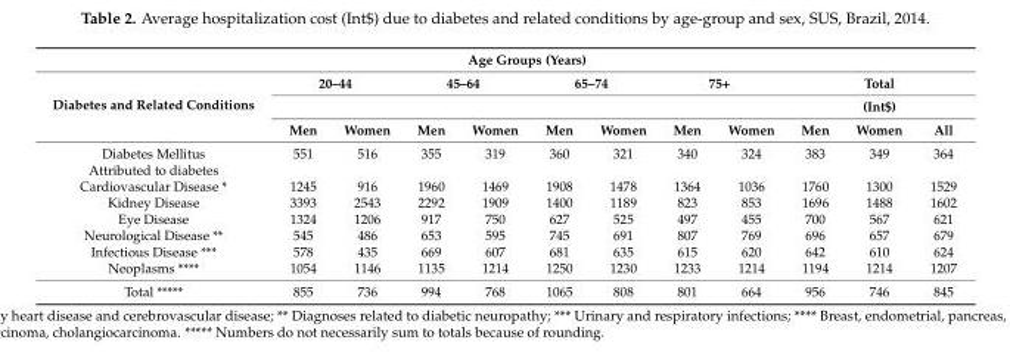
<table><thead><tr><td rowspan="4">Diabetes and Related Conditions</td><td colspan="8">Age Groups (Years)</td><td></td><td></td><td></td></tr><tr><td colspan="2">20–44</td><td colspan="2">45–64</td><td colspan="2">65–74</td><td colspan="2">75+</td><td rowspan="2" colspan="3">Total (Int$)</td></tr><tr><td rowspan="2">Men</td><td rowspan="2">Women</td><td rowspan="2">Men</td><td rowspan="2">Women</td><td rowspan="2">Men</td><td rowspan="2">Women</td><td rowspan="2">Men</td><td rowspan="2">Women</td></tr><tr><td>Men</td><td>Women</td><td>All</td></tr></thead><tbody><tr><td>Diabetes Mellitus</td><td>551</td><td>516</td><td>355</td><td>319</td><td>360</td><td>321</td><td>340</td><td>324</td><td>383</td><td>349</td><td>364</td></tr><tr><td colspan="12">Attributed to diabetes</td></tr><tr><td>Cardiovascular Disease *</td><td>1245</td><td>916</td><td>1960</td><td>1469</td><td>1908</td><td>1478</td><td>1364</td><td>1036</td><td>1760</td><td>1300</td><td>1529</td></tr><tr><td>Kidney Disease</td><td>3393</td><td>2543</td><td>2292</td><td>1909</td><td>1400</td><td>1189</td><td>823</td><td>853</td><td>1696</td><td>1488</td><td>1602</td></tr><tr><td>Eye Disease</td><td>1324</td><td>1206</td><td>917</td><td>750</td><td>627</td><td>525</td><td>497</td><td>455</td><td>700</td><td>567</td><td>621</td></tr><tr><td>Neurological Disease **</td><td>545</td><td>486</td><td>653</td><td>595</td><td>745</td><td>691</td><td>807</td><td>769</td><td>696</td><td>657</td><td>679</td></tr><tr><td>Infectious Disease ***</td><td>578</td><td>435</td><td>669</td><td>607</td><td>681</td><td>635</td><td>615</td><td>620</td><td>642</td><td>610</td><td>624</td></tr><tr><td>Neoplasms ****</td><td>1054</td><td>1146</td><td>1135</td><td>1214</td><td>1250</td><td>1230</td><td>1233</td><td>1214</td><td>1194</td><td>1214</td><td>1207</td></tr><tr><td>Total *****</td><td>855</td><td>736</td><td>994</td><td>768</td><td>1065</td><td>808</td><td>801</td><td>664</td><td>956</td><td>746</td><td>845</td></tr></tbody></table>